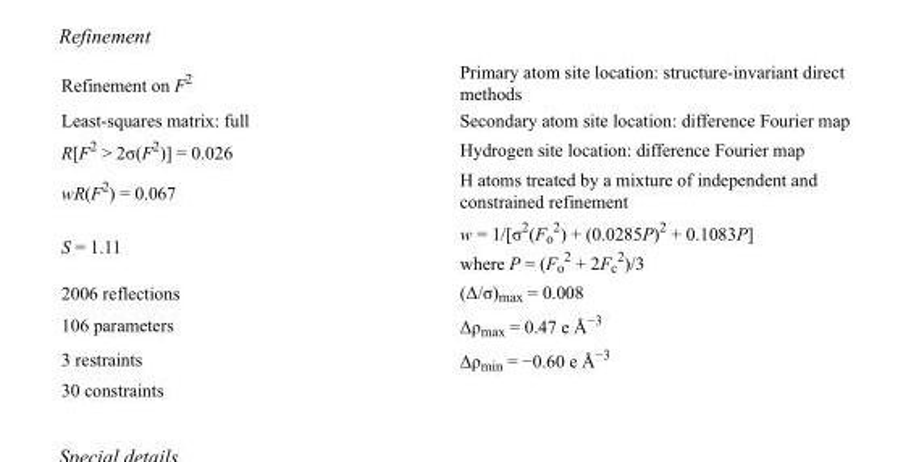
<table><tbody><tr><td>Refinement on F<sup>2</sup></td><td>Primary atom site location: structure-invariant direct methods</td></tr><tr><td>Least-squares matrix: full</td><td>Secondary atom site location: difference Fourier map</td></tr><tr><td>R[F<sup>2</sup> &gt; 2σ(F<sup>2</sup>)] = 0.026</td><td>Hydrogen site location: difference Fourier map</td></tr><tr><td>wR(F<sup>2</sup>) = 0.067</td><td>H atoms treated by a mixture of independent and constrained refinement</td></tr><tr><td>S = 1.11</td><td>w = 1/[σ<sup>2</sup>(F<sub>o</sub> <sup>2</sup>) + (0.0285P)<sup>2</sup> + 0.1083P] where P = (F<sub>o</sub> <sup>2</sup> + 2F<sub>c</sub> <sup>2</sup>)/3</td></tr><tr><td>2006 reflections</td><td>(Δ/σ)<sub>max</sub> = 0.008</td></tr><tr><td>106 parameters</td><td>Δρ<sub>max</sub> = 0.47 e Å<sup>−3</sup></td></tr><tr><td>3 restraints</td><td>Δρ<sub>min</sub> = −0.60 e Å<sup>−3</sup></td></tr><tr><td>30 constraints</td><td></td></tr></tbody></table>